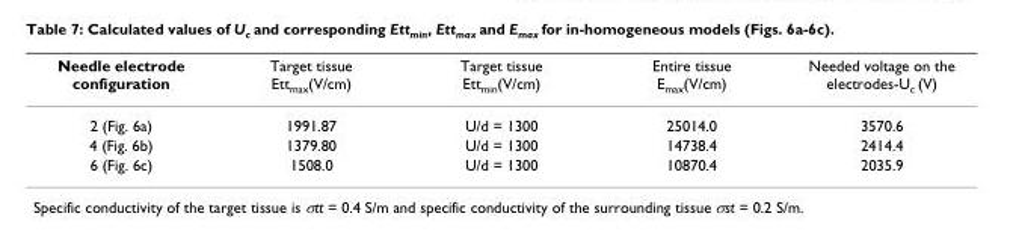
<table><thead><tr><td>Needle electrode configuration</td><td>Target tissue Ett<sub>max</sub>(V/cm)</td><td>Target tissue Ett<sub>min</sub>(V/cm)</td><td>Entire tissue E<sub>max</sub>(V/cm)</td><td>Needed voltage on the electrodes-U<sub>c</sub> (V)</td></tr></thead><tbody><tr><td>2 (Fig. 6a)</td><td>1991.87</td><td>U/d = 1300</td><td>25014.0</td><td>3570.6</td></tr><tr><td>4 (Fig. 6b)</td><td>1379.80</td><td>U/d = 1300</td><td>14738.4</td><td>2414.4</td></tr><tr><td>6 (Fig. 6c)</td><td>1508.0</td><td>U/d = 1300</td><td>10870.4</td><td>2035.9</td></tr></tbody></table>